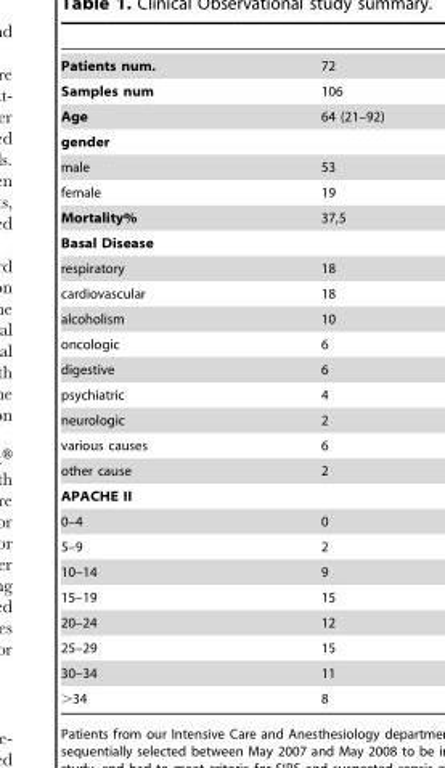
<table><tbody><tr><td>Patients num.</td><td>72</td></tr><tr><td>Samples num</td><td>106</td></tr><tr><td>Age</td><td>64 (21–92)</td></tr><tr><td colspan="2">gender</td></tr><tr><td>male</td><td>53</td></tr><tr><td>female</td><td>19</td></tr><tr><td>Mortality%</td><td>37,5</td></tr><tr><td colspan="2">Basal Disease</td></tr><tr><td>respiratory</td><td>18</td></tr><tr><td>cardiovascular</td><td>18</td></tr><tr><td>alcoholism</td><td>10</td></tr><tr><td>oncologic</td><td>6</td></tr><tr><td>digestive</td><td>6</td></tr><tr><td>psychiatric</td><td>4</td></tr><tr><td>neurologic</td><td>2</td></tr><tr><td>various causes</td><td>6</td></tr><tr><td>other cause</td><td>2</td></tr><tr><td colspan="2">APACHE II</td></tr><tr><td>0–4</td><td>0</td></tr><tr><td>5–9</td><td>2</td></tr><tr><td>10–14</td><td>9</td></tr><tr><td>15–19</td><td>15</td></tr><tr><td>20–24</td><td>12</td></tr><tr><td>25–29</td><td>15</td></tr><tr><td>30–34</td><td>11</td></tr><tr><td>&gt;34</td><td>8</td></tr></tbody></table>